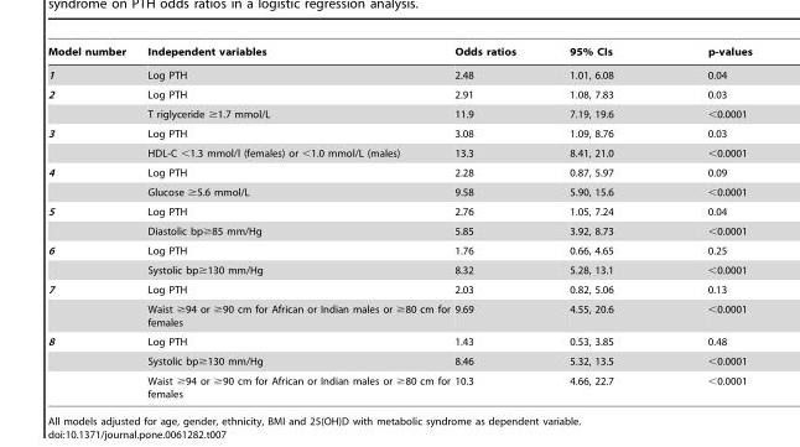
<table><thead><tr><td>Model number</td><td>Independent variables</td><td>Odds ratios</td><td>95% CIs</td><td>p-values</td></tr></thead><tbody><tr><td>1</td><td>Log PTH</td><td>2.48</td><td>1.01, 6.08</td><td>0.04</td></tr><tr><td rowspan="2">2</td><td>Log PTH</td><td>2.91</td><td>1.08, 7.83</td><td>0.03</td></tr><tr><td>T riglyceride ≥1.7 mmol/L</td><td>11.9</td><td>7.19, 19.6</td><td>&lt;0.0001</td></tr><tr><td rowspan="2">3</td><td>Log PTH</td><td>3.08</td><td>1.09, 8.76</td><td>0.03</td></tr><tr><td>HDL-C &lt;1.3 mmol/l (females) or &lt;1.0 mmol/L (males)</td><td>13.3</td><td>8.41, 21.0</td><td>&lt;0.0001</td></tr><tr><td rowspan="2">4</td><td>Log PTH</td><td>2.28</td><td>0.87, 5.97</td><td>0.09</td></tr><tr><td>Glucose ≥5.6 mmol/L</td><td>9.58</td><td>5.90, 15.6</td><td>&lt;0.0001</td></tr><tr><td rowspan="2">5</td><td>Log PTH</td><td>2.76</td><td>1.05, 7.24</td><td>0.04</td></tr><tr><td>Diastolic bp≥85 mm/Hg</td><td>5.85</td><td>3.92, 8.73</td><td>&lt;0.0001</td></tr><tr><td rowspan="2">6</td><td>Log PTH</td><td>1.76</td><td>0.66, 4.65</td><td>0.25</td></tr><tr><td>Systolic bp≥130 mm/Hg</td><td>8.32</td><td>5.28, 13.1</td><td>&lt;0.0001</td></tr><tr><td rowspan="2">7</td><td>Log PTH</td><td>2.03</td><td>0.82, 5.06</td><td>0.13</td></tr><tr><td>Waist ≥94 or ≥90 cm for African or Indian males or ≥80 cm for females</td><td>9.69</td><td>4.55, 20.6</td><td>&lt;0.0001</td></tr><tr><td rowspan="3">8</td><td>Log PTH</td><td>1.43</td><td>0.53, 3.85</td><td>0.48</td></tr><tr><td>Systolic bp≥130 mm/Hg</td><td>8.46</td><td>5.32, 13.5</td><td>&lt;0.0001</td></tr><tr><td>Waist ≥94 or ≥90 cm for African or Indian males or ≥80 cm for females</td><td>10.3</td><td>4.66, 22.7</td><td>&lt;0.0001</td></tr></tbody></table>